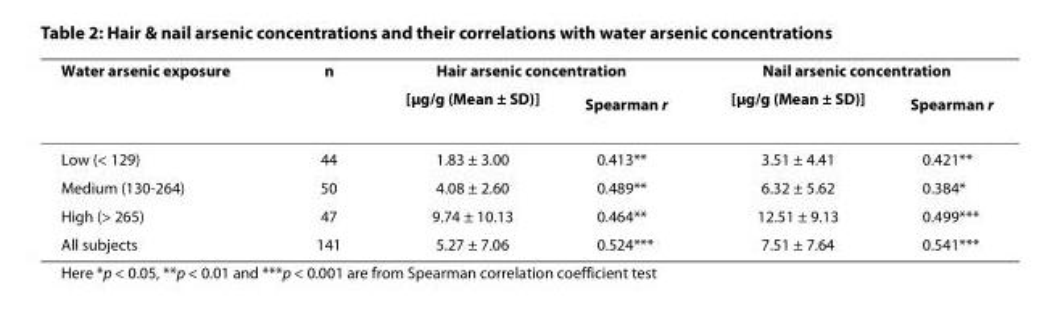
<table><thead><tr><td rowspan="2">Water arsenic exposure</td><td rowspan="2">n</td><td colspan="2">Hair arsenic concentration</td><td colspan="2">Nail arsenic concentration</td></tr><tr><td>[μg/g (Mean ± SD)]</td><td>Spearman r</td><td>[μg/g (Mean ± SD)]</td><td>Spearman r</td></tr></thead><tbody><tr><td>Low (&lt; 129)</td><td>44</td><td>1.83 ± 3.00</td><td>0.413**</td><td>3.51 ± 4.41</td><td>0.421**</td></tr><tr><td>Medium (130-264)</td><td>50</td><td>4.08 ± 2.60</td><td>0.489**</td><td>6.32 ± 5.62</td><td>0.384*</td></tr><tr><td>High (&gt; 265)</td><td>47</td><td>9.74 ± 10.13</td><td>0.464**</td><td>12.51 ± 9.13</td><td>0.499***</td></tr><tr><td>All subjects</td><td>141</td><td>5.27 ± 7.06</td><td>0.524***</td><td>7.51 ± 7.64</td><td>0.541***</td></tr></tbody></table>